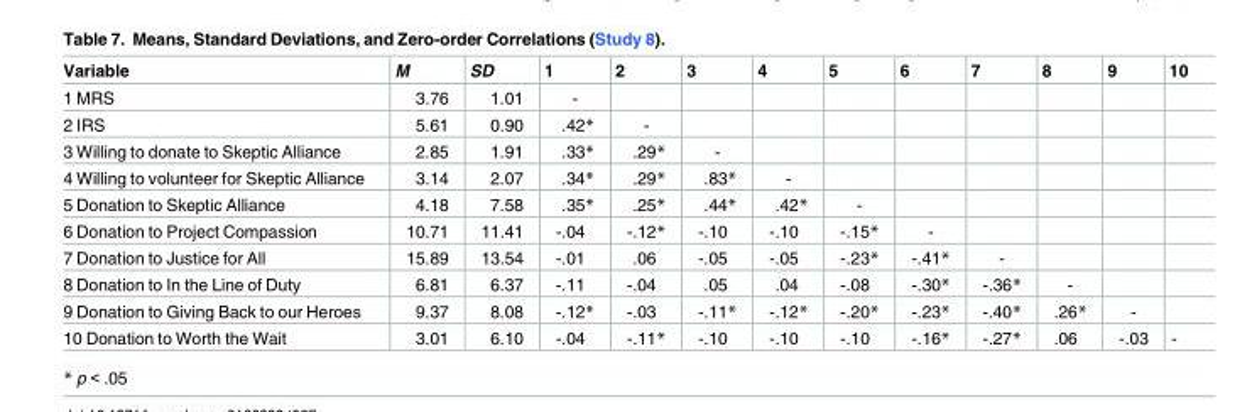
<table><thead><tr><td>Variable</td><td>M</td><td>SD</td><td>1</td><td>2</td><td>3</td><td>4</td><td>5</td><td>6</td><td>7</td><td>8</td><td>9</td><td>10</td></tr></thead><tbody><tr><td>1 MRS</td><td>3.76</td><td>1.01</td><td>-</td><td></td><td></td><td></td><td></td><td></td><td></td><td></td><td></td><td></td></tr><tr><td>2 IRS</td><td>5.61</td><td>0.90</td><td>.42*</td><td>-</td><td></td><td></td><td></td><td></td><td></td><td></td><td></td><td></td></tr><tr><td>3 Willing to donate to Skeptic Alliance</td><td>2.85</td><td>1.91</td><td>.33*</td><td>.29*</td><td>-</td><td></td><td></td><td></td><td></td><td></td><td></td><td></td></tr><tr><td>4 Willing to volunteer for Skeptic Alliance</td><td>3.14</td><td>2.07</td><td>.34*</td><td>.29*</td><td>.83*</td><td>-</td><td></td><td></td><td></td><td></td><td></td><td></td></tr><tr><td>5 Donation to Skeptic Alliance</td><td>4.18</td><td>7.58</td><td>.35*</td><td>.25*</td><td>.44*</td><td>.42*</td><td>-</td><td></td><td></td><td></td><td></td><td></td></tr><tr><td>6 Donation to Project Compassion</td><td>10.71</td><td>11.41</td><td>-.04</td><td>-.12*</td><td>-.10</td><td>-.10</td><td>-.15*</td><td>-</td><td></td><td></td><td></td><td></td></tr><tr><td>7 Donation to Justice for All</td><td>15.89</td><td>13.54</td><td>-.01</td><td>.06</td><td>-.05</td><td>-.05</td><td>-.23*</td><td>-.41*</td><td>-</td><td></td><td></td><td></td></tr><tr><td>8 Donation to In the Line of Duty</td><td>6.81</td><td>6.37</td><td>-.11</td><td>-.04</td><td>.05</td><td>.04</td><td>-.08</td><td>-.30*</td><td>-.36*</td><td>-</td><td></td><td></td></tr><tr><td>9 Donation to Giving Back to our Heroes</td><td>9.37</td><td>8.08</td><td>-.12*</td><td>-.03</td><td>-.11*</td><td>-.12*</td><td>-.20*</td><td>-.23*</td><td>-.40*</td><td>.26*</td><td>-</td><td></td></tr><tr><td>10 Donation to Worth the Wait</td><td>3.01</td><td>6.10</td><td>-.04</td><td>-.11*</td><td>-.10</td><td>-.10</td><td>-.10</td><td>-.16*</td><td>-.27*</td><td>.06</td><td>-.03</td><td>-</td></tr></tbody></table>